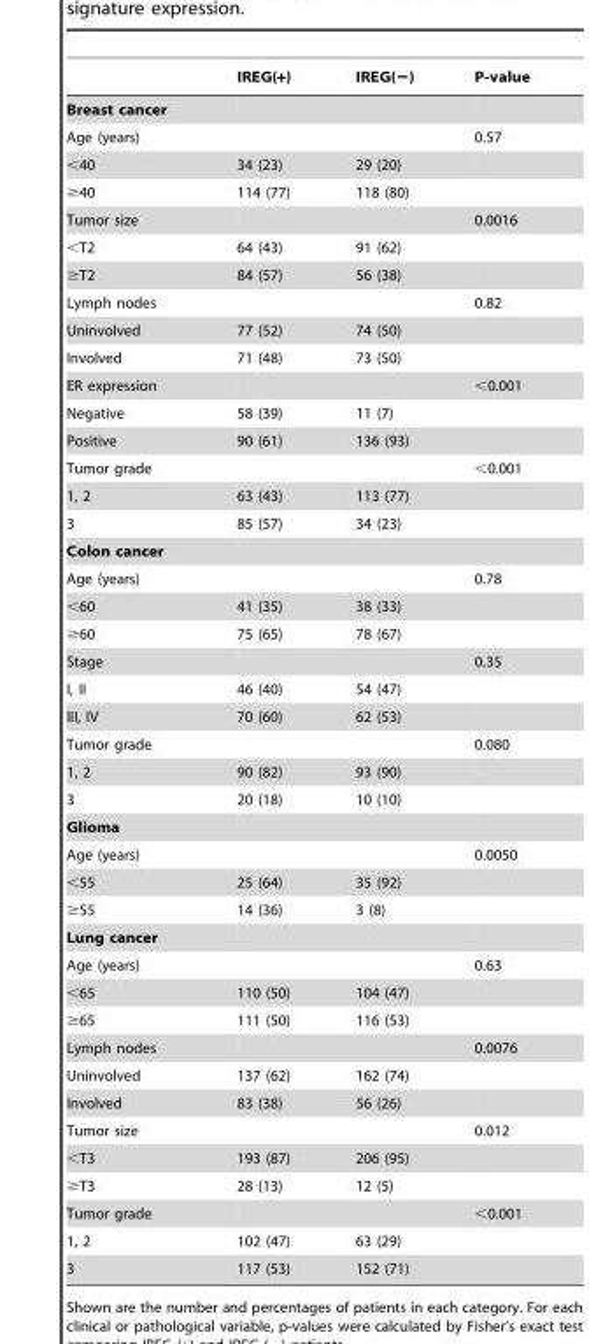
<table><thead><tr><td></td><td>IREG(+)</td><td>IREG(−)</td><td>P-value</td></tr></thead><tbody><tr><td colspan="4">Breast cancer</td></tr><tr><td>Age (years)</td><td></td><td></td><td>0.57</td></tr><tr><td>&lt;40</td><td>34 (23)</td><td>29 (20)</td><td></td></tr><tr><td>≥40</td><td>114 (77)</td><td>118 (80)</td><td></td></tr><tr><td>Tumor size</td><td></td><td></td><td>0.0016</td></tr><tr><td>&lt;T2</td><td>64 (43)</td><td>91 (62)</td><td></td></tr><tr><td>≥T2</td><td>84 (57)</td><td>56 (38)</td><td></td></tr><tr><td>Lymph nodes</td><td></td><td></td><td>0.82</td></tr><tr><td>Uninvolved</td><td>77 (52)</td><td>74 (50)</td><td></td></tr><tr><td>Involved</td><td>71 (48)</td><td>73 (50)</td><td></td></tr><tr><td>ER expression</td><td></td><td></td><td>&lt;0.001</td></tr><tr><td>Negative</td><td>58 (39)</td><td>11 (7)</td><td></td></tr><tr><td>Positive</td><td>90 (61)</td><td>136 (93)</td><td></td></tr><tr><td>Tumor grade</td><td></td><td></td><td>&lt;0.001</td></tr><tr><td>1, 2</td><td>63 (43)</td><td>113 (77)</td><td></td></tr><tr><td>3</td><td>85 (57)</td><td>34 (23)</td><td></td></tr><tr><td colspan="4">Colon cancer</td></tr><tr><td>Age (years)</td><td></td><td></td><td>0.78</td></tr><tr><td>&lt;60</td><td>41 (35)</td><td>38 (33)</td><td></td></tr><tr><td>≥60</td><td>75 (65)</td><td>78 (67)</td><td></td></tr><tr><td>Stage</td><td></td><td></td><td>0.35</td></tr><tr><td>I, II</td><td>46 (40)</td><td>54 (47)</td><td></td></tr><tr><td>III, IV</td><td>70 (60)</td><td>62 (53)</td><td></td></tr><tr><td>Tumor grade</td><td></td><td></td><td>0.080</td></tr><tr><td>1, 2</td><td>90 (82)</td><td>93 (90)</td><td></td></tr><tr><td>3</td><td>20 (18)</td><td>10 (10)</td><td></td></tr><tr><td colspan="4">Glioma</td></tr><tr><td>Age (years)</td><td></td><td></td><td>0.0050</td></tr><tr><td>&lt;55</td><td>25 (64)</td><td>35 (92)</td><td></td></tr><tr><td>≥55</td><td>14 (36)</td><td>3 (8)</td><td></td></tr><tr><td colspan="4">Lung cancer</td></tr><tr><td>Age (years)</td><td></td><td></td><td>0.63</td></tr><tr><td>&lt;65</td><td>110 (50)</td><td>104 (47)</td><td></td></tr><tr><td>≥65</td><td>111 (50)</td><td>116 (53)</td><td></td></tr><tr><td>Lymph nodes</td><td></td><td></td><td>0.0076</td></tr><tr><td>Uninvolved</td><td>137 (62)</td><td>162 (74)</td><td></td></tr><tr><td>Involved</td><td>83 (38)</td><td>56 (26)</td><td></td></tr><tr><td>Tumor size</td><td></td><td></td><td>0.012</td></tr><tr><td>&lt;T3</td><td>193 (87)</td><td>206 (95)</td><td></td></tr><tr><td>≥T3</td><td>28 (13)</td><td>12 (5)</td><td></td></tr><tr><td>Tumor grade</td><td></td><td></td><td>&lt;0.001</td></tr><tr><td>1, 2</td><td>102 (47)</td><td>63 (29)</td><td></td></tr><tr><td>3</td><td>117 (53)</td><td>152 (71)</td><td></td></tr></tbody></table>